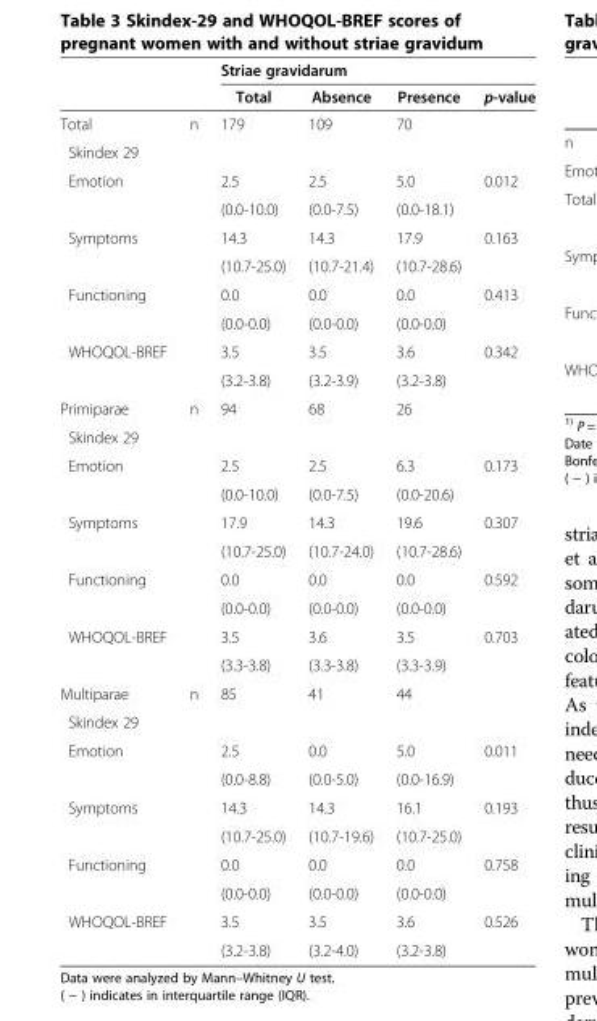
<table><thead><tr><td rowspan="2"></td><td rowspan="2"></td><td colspan="4">Striae gravidarum</td></tr><tr><td>Total</td><td>Absence</td><td>Presence</td><td>p-value</td></tr></thead><tbody><tr><td>Total</td><td>n</td><td>179</td><td>109</td><td>70</td><td></td></tr><tr><td colspan="6">Skindex 29</td></tr><tr><td rowspan="2">Emotion</td><td></td><td>2.5</td><td>2.5</td><td>5.0</td><td>0.012</td></tr><tr><td></td><td>(0.0-10.0)</td><td>(0.0-7.5)</td><td>(0.0-18.1)</td><td></td></tr><tr><td rowspan="2">Symptoms</td><td></td><td>14.3</td><td>14.3</td><td>17.9</td><td>0.163</td></tr><tr><td></td><td>(10.7-25.0)</td><td>(10.7-21.4)</td><td>(10.7-28.6)</td><td></td></tr><tr><td rowspan="2">Functioning</td><td></td><td>0.0</td><td>0.0</td><td>0.0</td><td>0.413</td></tr><tr><td></td><td>(0.0-0.0)</td><td>(0.0-0.0)</td><td>(0.0-0.0)</td><td></td></tr><tr><td rowspan="2">WHOQOL-BREF</td><td></td><td>3.5</td><td>3.5</td><td>3.6</td><td>0.342</td></tr><tr><td></td><td>(3.2-3.8)</td><td>(3.2-3.9)</td><td>(3.2-3.8)</td><td></td></tr><tr><td>Primiparae</td><td>n</td><td>94</td><td>68</td><td>26</td><td></td></tr><tr><td colspan="6">Skindex 29</td></tr><tr><td rowspan="2">Emotion</td><td></td><td>2.5</td><td>2.5</td><td>6.3</td><td>0.173</td></tr><tr><td></td><td>(0.0-10.0)</td><td>(0.0-7.5)</td><td>(0.0-20.6)</td><td></td></tr><tr><td rowspan="2">Symptoms</td><td></td><td>17.9</td><td>14.3</td><td>19.6</td><td>0.307</td></tr><tr><td></td><td>(10.7-25.0)</td><td>(10.7-24.0)</td><td>(10.7-28.6)</td><td></td></tr><tr><td rowspan="2">Functioning</td><td></td><td>0.0</td><td>0.0</td><td>0.0</td><td>0.592</td></tr><tr><td></td><td>(0.0-0.0)</td><td>(0.0-0.0)</td><td>(0.0-0.0)</td><td></td></tr><tr><td rowspan="2">WHOQOL-BREF</td><td></td><td>3.5</td><td>3.6</td><td>3.5</td><td>0.703</td></tr><tr><td></td><td>(3.3-3.8)</td><td>(3.3-3.8)</td><td>(3.3-3.9)</td><td></td></tr><tr><td>Multiparae</td><td>n</td><td>85</td><td>41</td><td>44</td><td></td></tr><tr><td colspan="6">Skindex 29</td></tr><tr><td rowspan="2">Emotion</td><td></td><td>2.5</td><td>0.0</td><td>5.0</td><td>0.011</td></tr><tr><td></td><td>(0.0-8.8)</td><td>(0.0-5.0)</td><td>(0.0-16.9)</td><td></td></tr><tr><td rowspan="2">Symptoms</td><td></td><td>14.3</td><td>14.3</td><td>16.1</td><td>0.193</td></tr><tr><td></td><td>(10.7-25.0)</td><td>(10.7-19.6)</td><td>(10.7-25.0)</td><td></td></tr><tr><td rowspan="2">Functioning</td><td></td><td>0.0</td><td>0.0</td><td>0.0</td><td>0.758</td></tr><tr><td></td><td>(0.0-0.0)</td><td>(0.0-0.0)</td><td>(0.0-0.0)</td><td></td></tr><tr><td rowspan="2">WHOQOL-BREF</td><td></td><td>3.5</td><td>3.5</td><td>3.6</td><td>0.526</td></tr><tr><td></td><td>(3.2-3.8)</td><td>(3.2-4.0)</td><td>(3.2-3.8)</td><td></td></tr></tbody></table>